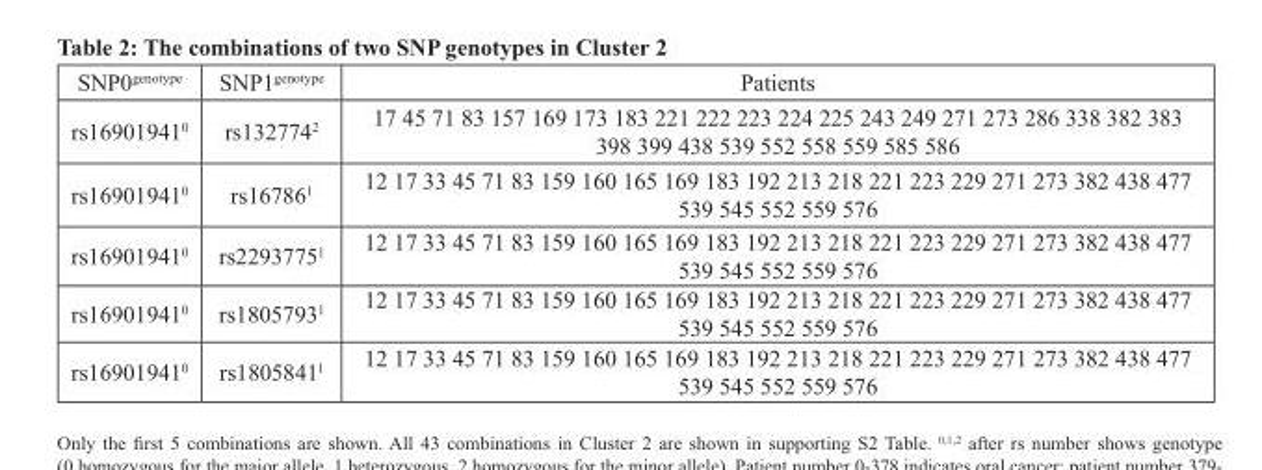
<table><thead><tr><td>SNP0<sup>genotype</sup></td><td>SNP1<sup>genotype</sup></td><td>Patients</td></tr></thead><tbody><tr><td>rs16901941<sup>0</sup></td><td>rs132774<sup>2</sup></td><td>17 45 71 83 157 169 173 183 221 222 223 224 225 243 249 271 273 286 338 382 383 398 399 438 539 552 558 559 585 586</td></tr><tr><td>rs16901941<sup>0</sup></td><td>rs16786<sup>1</sup></td><td>12 17 33 45 71 83 159 160 165 169 183 192 213 218 221 223 229 271 273 382 438 477 539 545 552 559 576</td></tr><tr><td>rs16901941<sup>0</sup></td><td>rs2293775<sup>1</sup></td><td>12 17 33 45 71 83 159 160 165 169 183 192 213 218 221 223 229 271 273 382 438 477 539 545 552 559 576</td></tr><tr><td>rs16901941<sup>0</sup></td><td>rs1805793<sup>1</sup></td><td>12 17 33 45 71 83 159 160 165 169 183 192 213 218 221 223 229 271 273 382 438 477 539 545 552 559 576</td></tr><tr><td>rs16901941<sup>0</sup></td><td>rs1805841<sup>1</sup></td><td>12 17 33 45 71 83 159 160 165 169 183 192 213 218 221 223 229 271 273 382 438 477 539 545 552 559 576</td></tr></tbody></table>